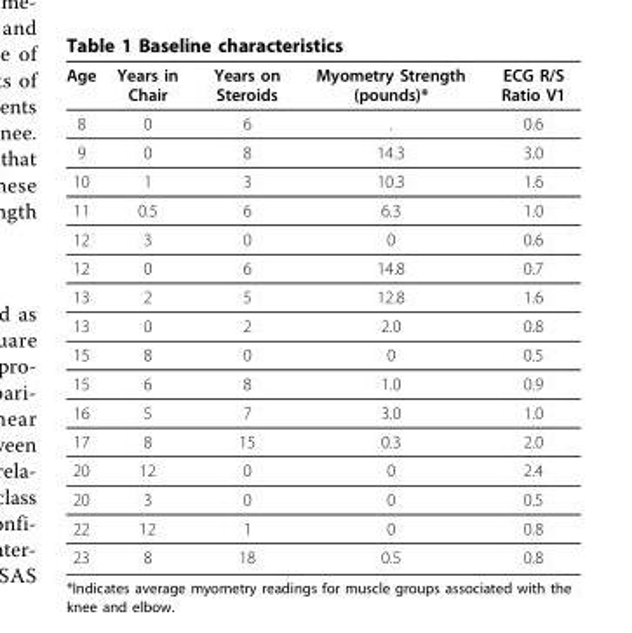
<table><thead><tr><td>Age</td><td>Years in Chair</td><td>Years on Steroids</td><td>Myometry Strength (pounds)*</td><td>ECG R/S Ratio V1</td></tr></thead><tbody><tr><td>8</td><td>0</td><td>6</td><td>.</td><td>0.6</td></tr><tr><td>9</td><td>0</td><td>8</td><td>14.3</td><td>3.0</td></tr><tr><td>10</td><td>1</td><td>3</td><td>10.3</td><td>1.6</td></tr><tr><td>11</td><td>0.5</td><td>6</td><td>6.3</td><td>1.0</td></tr><tr><td>12</td><td>3</td><td>0</td><td>0</td><td>0.6</td></tr><tr><td>12</td><td>0</td><td>6</td><td>14.8</td><td>0.7</td></tr><tr><td>13</td><td>2</td><td>5</td><td>12.8</td><td>1.6</td></tr><tr><td>13</td><td>0</td><td>2</td><td>2.0</td><td>0.8</td></tr><tr><td>15</td><td>8</td><td>0</td><td>0</td><td>0.5</td></tr><tr><td>15</td><td>6</td><td>8</td><td>1.0</td><td>0.9</td></tr><tr><td>16</td><td>5</td><td>7</td><td>3.0</td><td>1.0</td></tr><tr><td>17</td><td>8</td><td>15</td><td>0.3</td><td>2.0</td></tr><tr><td>20</td><td>12</td><td>0</td><td>0</td><td>2.4</td></tr><tr><td>20</td><td>3</td><td>0</td><td>0</td><td>0.5</td></tr><tr><td>22</td><td>12</td><td>1</td><td>0</td><td>0.8</td></tr><tr><td>23</td><td>8</td><td>18</td><td>0.5</td><td>0.8</td></tr></tbody></table>